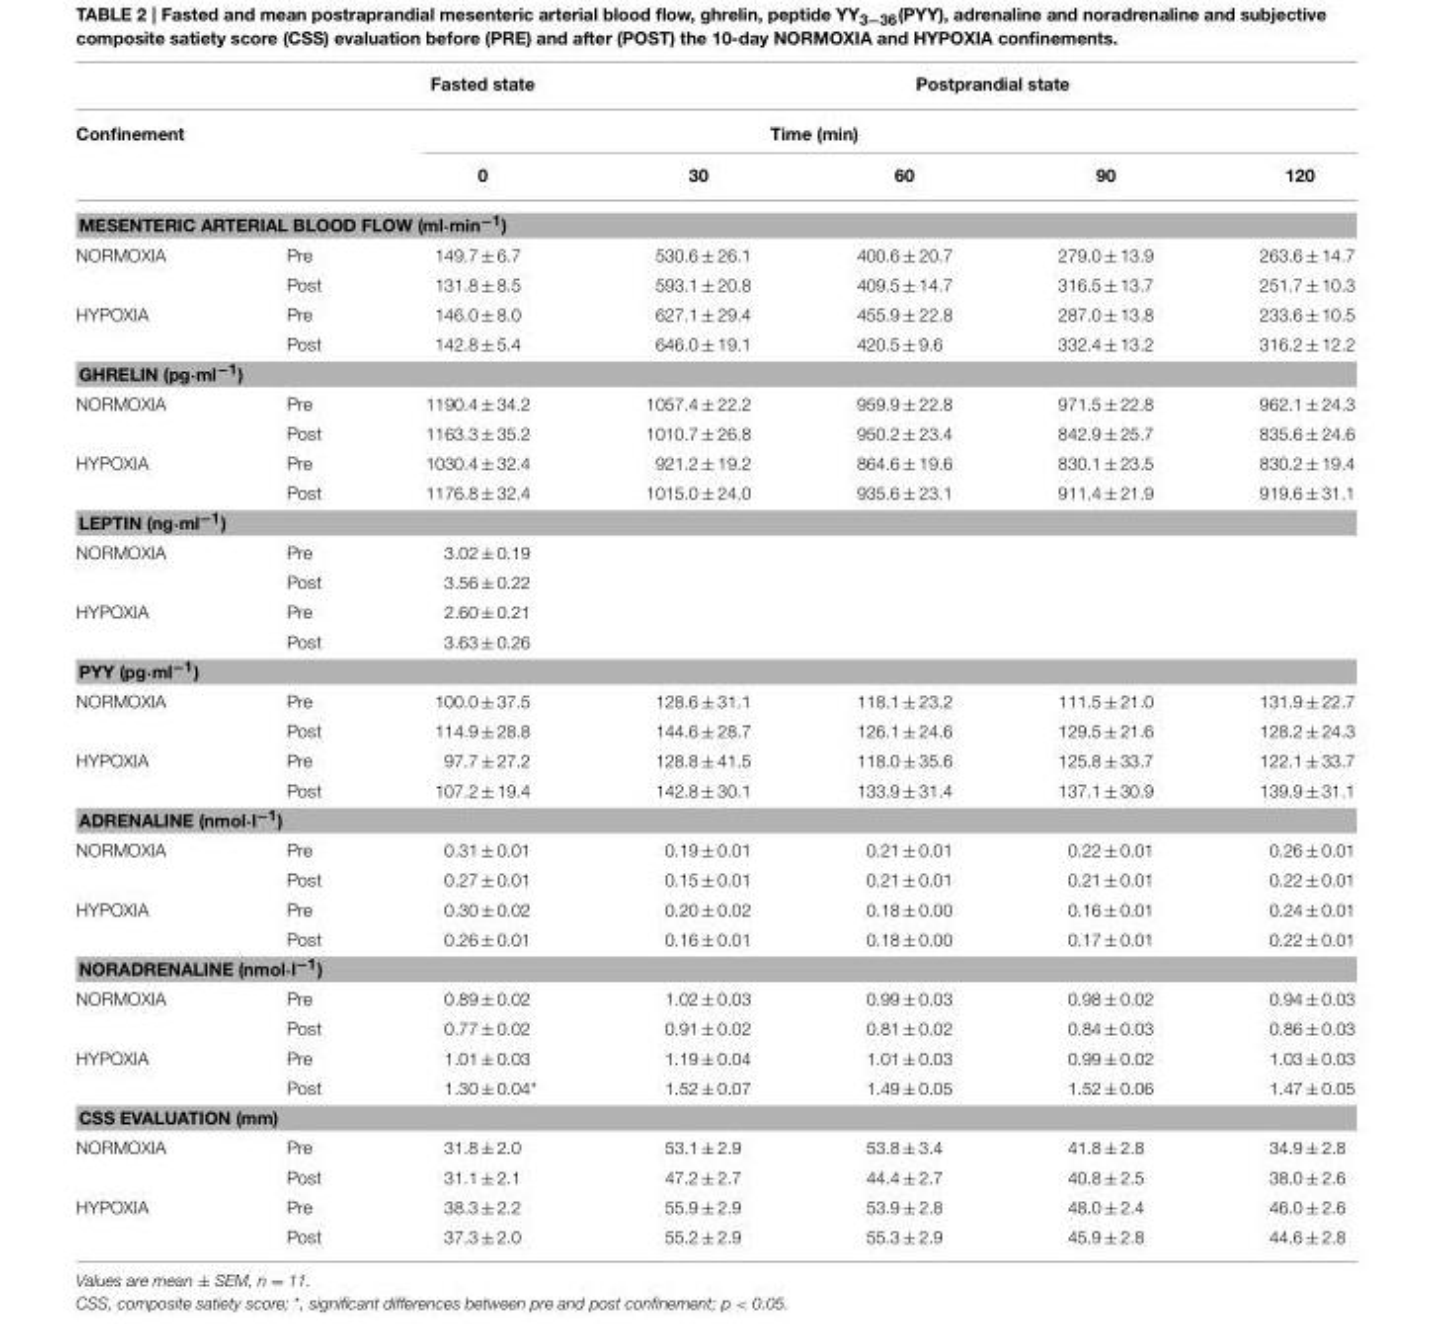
<table><thead><tr><td rowspan="3">Confinement</td><td rowspan="3"></td><td>Fasted state</td><td colspan="4">Postprandial state</td></tr><tr><td colspan="5">Time (min)</td></tr><tr><td>0</td><td>30</td><td>60</td><td>90</td><td>120</td></tr></thead><tbody><tr><td colspan="7">MESENTERIC ARTERIAL BLOOD FLOW (ml·min<sup>−1</sup>)</td></tr><tr><td rowspan="2">NORMOXIA</td><td>Pre</td><td>149.7 ± 6.7</td><td>530.6 ± 26.1</td><td>400.6 ± 20.7</td><td>279.0 ± 13.9</td><td>263.6 ± 14.7</td></tr><tr><td>Post</td><td>131.8 ± 8.5</td><td>593.1 ± 20.8</td><td>409.5 ± 14.7</td><td>316.5 ± 13.7</td><td>251.7 ± 10.3</td></tr><tr><td rowspan="2">HYPOXIA</td><td>Pre</td><td>146.0 ± 8.0</td><td>627.1 ± 29.4</td><td>455.9 ± 22.8</td><td>287.0 ± 13.8</td><td>233.6 ± 10.5</td></tr><tr><td>Post</td><td>142.8 ± 5.4</td><td>646.0 ± 19.1</td><td>420.5 ± 9.6</td><td>332.4 ± 13.2</td><td>316.2 ± 12.2</td></tr><tr><td colspan="7">GHRELIN (pg·ml<sup>−1</sup>)</td></tr><tr><td rowspan="2">NORMOXIA</td><td>Pre</td><td>1190.4 ± 34.2</td><td>1057.4 ± 22.2</td><td>959.9 ± 22.8</td><td>971.5 ± 22.8</td><td>962.1 ± 24.3</td></tr><tr><td>Post</td><td>1163.3 ± 35.2</td><td>1010.7 ± 26.8</td><td>950.2 ± 23.4</td><td>842.9 ± 25.7</td><td>835.6 ± 24.6</td></tr><tr><td rowspan="2">HYPOXIA</td><td>Pre</td><td>1030.4 ± 32.4</td><td>921.2 ± 19.2</td><td>864.6 ± 19.6</td><td>830.1 ± 23.5</td><td>830.2 ± 19.4</td></tr><tr><td>Post</td><td>1176.8 ± 32.4</td><td>1015.0 ± 24.0</td><td>935.6 ± 23.1</td><td>911.4 ± 21.9</td><td>919.6 ± 31.1</td></tr><tr><td colspan="7">LEPTIN (ng·ml<sup>−1</sup>)</td></tr><tr><td rowspan="2">NORMOXIA</td><td>Pre</td><td>3.02 ± 0.19</td><td></td><td></td><td></td><td></td></tr><tr><td>Post</td><td>3.56 ± 0.22</td><td></td><td></td><td></td><td></td></tr><tr><td rowspan="2">HYPOXIA</td><td>Pre</td><td>2.60 ± 0.21</td><td></td><td></td><td></td><td></td></tr><tr><td>Post</td><td>3.63 ± 0.26</td><td></td><td></td><td></td><td></td></tr><tr><td colspan="7">PYY (pg·ml<sup>−1</sup>)</td></tr><tr><td rowspan="2">NORMOXIA</td><td>Pre</td><td>100.0 ± 37.5</td><td>128.6 ± 31.1</td><td>118.1 ± 23.2</td><td>111.5 ± 21.0</td><td>131.9 ± 22.7</td></tr><tr><td>Post</td><td>114.9 ± 28.8</td><td>144.6 ± 28.7</td><td>126.1 ± 24.6</td><td>129.5 ± 21.6</td><td>128.2 ± 24.3</td></tr><tr><td rowspan="2">HYPOXIA</td><td>Pre</td><td>97.7 ± 27.2</td><td>128.8 ± 41.5</td><td>118.0 ± 35.6</td><td>125.8 ± 33.7</td><td>122.1 ± 33.7</td></tr><tr><td>Post</td><td>107.2 ± 19.4</td><td>142.8 ± 30.1</td><td>133.9 ± 31.4</td><td>137.1 ± 30.9</td><td>139.9 ± 31.1</td></tr><tr><td colspan="7">ADRENALINE (nmol·l<sup>−1</sup>)</td></tr><tr><td rowspan="2">NORMOXIA</td><td>Pre</td><td>0.31 ± 0.01</td><td>0.19 ± 0.01</td><td>0.21 ± 0.01</td><td>0.22 ± 0.01</td><td>0.26 ± 0.01</td></tr><tr><td>Post</td><td>0.27 ± 0.01</td><td>0.15 ± 0.01</td><td>0.21 ± 0.01</td><td>0.21 ± 0.01</td><td>0.22 ± 0.01</td></tr><tr><td rowspan="2">HYPOXIA</td><td>Pre</td><td>0.30 ± 0.02</td><td>0.20 ± 0.02</td><td>0.18 ± 0.00</td><td>0.16 ± 0.01</td><td>0.24 ± 0.01</td></tr><tr><td>Post</td><td>0.26 ± 0.01</td><td>0.16 ± 0.01</td><td>0.18 ± 0.00</td><td>0.17 ± 0.01</td><td>0.22 ± 0.01</td></tr><tr><td colspan="7">NORADRENALINE (nmol·l<sup>−1</sup>)</td></tr><tr><td rowspan="2">NORMOXIA</td><td>Pre</td><td>0.89 ± 0.02</td><td>1.02 ± 0.03</td><td>0.99 ± 0.03</td><td>0.98 ± 0.02</td><td>0.94 ± 0.03</td></tr><tr><td>Post</td><td>0.77 ± 0.02</td><td>0.91 ± 0.02</td><td>0.81 ± 0.02</td><td>0.84 ± 0.03</td><td>0.86 ± 0.03</td></tr><tr><td rowspan="2">HYPOXIA</td><td>Pre</td><td>1.01 ± 0.03</td><td>1.19 ± 0.04</td><td>1.01 ± 0.03</td><td>0.99 ± 0.02</td><td>1.03 ± 0.03</td></tr><tr><td>Post</td><td>1.30 ± 0.04*</td><td>1.52 ± 0.07</td><td>1.49 ± 0.05</td><td>1.52 ± 0.06</td><td>1.47 ± 0.05</td></tr><tr><td colspan="7">CSS EVALUATION (mm)</td></tr><tr><td rowspan="2">NORMOXIA</td><td>Pre</td><td>31.8 ± 2.0</td><td>53.1 ± 2.9</td><td>53.8 ± 3.4</td><td>41.8 ± 2.8</td><td>34.9 ± 2.8</td></tr><tr><td>Post</td><td>31.1 ± 2.1</td><td>47.2 ± 2.7</td><td>44.4 ± 2.7</td><td>40.8 ± 2.5</td><td>38.0 ± 2.6</td></tr><tr><td rowspan="2">HYPOXIA</td><td>Pre</td><td>38.3 ± 2.2</td><td>55.9 ± 2.9</td><td>53.9 ± 2.8</td><td>48.0 ± 2.4</td><td>46.0 ± 2.6</td></tr><tr><td>Post</td><td>37.3 ± 2.0</td><td>55.2 ± 2.9</td><td>55.3 ± 2.9</td><td>45.9 ± 2.8</td><td>44.6 ± 2.8</td></tr></tbody></table>